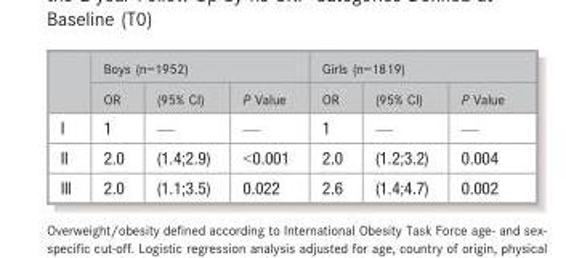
<table><thead><tr><td rowspan="2"></td><td colspan="3">Boys (n=1952)</td><td colspan="3">Girls (n=1819)</td></tr><tr><td>OR</td><td>(95% CI)</td><td>P Value</td><td>OR</td><td>(95% CI)</td><td>P Value</td></tr></thead><tbody><tr><td>I</td><td>1</td><td>—</td><td>—</td><td>1</td><td>—</td><td>—</td></tr><tr><td>II</td><td>2.0</td><td>(1.4;2.9)</td><td>&lt;0.001</td><td>2.0</td><td>(1.2;3.2)</td><td>0.004</td></tr><tr><td>III</td><td>2.0</td><td>(1.1;3.5)</td><td>0.022</td><td>2.6</td><td>(1.4;4.7)</td><td>0.002</td></tr></tbody></table>